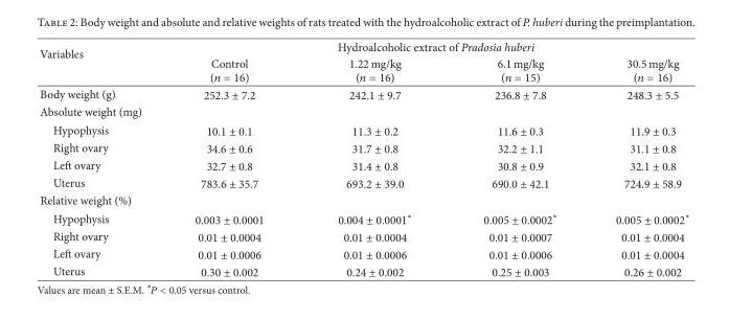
<table><thead><tr><td rowspan="2">Variables</td><td colspan="4">Hydroalcoholic extract of Pradosia huberi</td></tr><tr><td>Control (𝑛𝑛 𝑛 𝑛𝑛)</td><td>1.22 mg/kg (𝑛𝑛 𝑛 𝑛𝑛)</td><td>6.1 mg/kg (𝑛𝑛 𝑛 𝑛𝑃)</td><td>30.5 mg/kg (𝑛𝑛 𝑛 𝑛𝑛)</td></tr></thead><tbody><tr><td>Body weight (g)</td><td>252.3 ± 7.2</td><td>242.1 ± 9.7</td><td>236.8 ± 7.8</td><td>248.3 ± 5.5</td></tr><tr><td colspan="5">Absolute weight (mg)</td></tr><tr><td>Hypophysis</td><td>10.1 ± 0.1</td><td>11.3 ± 0.2</td><td>11.6 ± 0.3</td><td>11.9 ± 0.3</td></tr><tr><td>Right ovary</td><td>34.6 ± 0.6</td><td>31.7 ± 0.8</td><td>32.2 ± 1.1</td><td>31.1 ± 0.8</td></tr><tr><td>Le ovary</td><td>32.7 ± 0.8</td><td>31.4 ± 0.8</td><td>30.8 ± 0.9</td><td>32.1 ± 0.8</td></tr><tr><td>Uterus</td><td>783.6 ± 35.7</td><td>693.2 ± 39.0</td><td>690.0 ± 42.1</td><td>724.9 ± 58.9</td></tr><tr><td colspan="5">Relative weight (%)</td></tr><tr><td>Hypophysis</td><td>0.003 ± 0.0001</td><td>0.004 ± 0.0001∗</td><td>0.005 ± 0.0002∗</td><td>0.005 ± 0.0002∗</td></tr><tr><td>Right ovary</td><td>0.01 ± 0.0004</td><td>0.01 ± 0.0004</td><td>0.01 ± 0.0007</td><td>0.01 ± 0.0004</td></tr><tr><td>Le ovary</td><td>0.01 ± 0.0006</td><td>0.01 ± 0.0006</td><td>0.01 ± 0.0006</td><td>0.01 ± 0.0004</td></tr><tr><td>Uterus</td><td>0.30 ± 0.002</td><td>0.24 ± 0.002</td><td>0.25 ± 0.003</td><td>0.26 ± 0.002</td></tr></tbody></table>